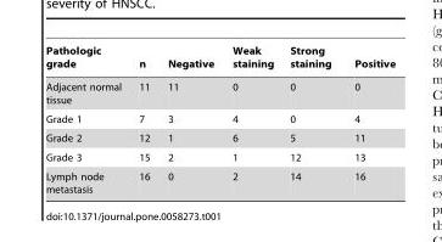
<table><thead><tr><td>Pathologic grade</td><td>n</td><td>Negative</td><td>Weak staining</td><td>Strong staining</td><td>Positive</td></tr></thead><tbody><tr><td>Adjacent normal tissue</td><td>11</td><td>11</td><td>0</td><td>0</td><td>0</td></tr><tr><td>Grade 1</td><td>7</td><td>3</td><td>4</td><td>0</td><td>4</td></tr><tr><td>Grade 2</td><td>12</td><td>1</td><td>6</td><td>5</td><td>11</td></tr><tr><td>Grade 3</td><td>15</td><td>2</td><td>1</td><td>12</td><td>13</td></tr><tr><td>Lymph node metastasis</td><td>16</td><td>0</td><td>2</td><td>14</td><td>16</td></tr></tbody></table>